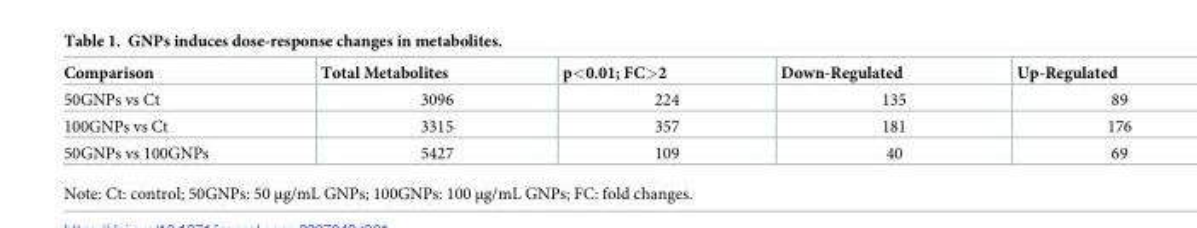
<table><thead><tr><td>Comparison</td><td>Total Metabolites</td><td>p&lt;0.01; FC&gt;2</td><td>Down-Regulated</td><td>Up-Regulated</td></tr></thead><tbody><tr><td>50GNPs vs Ct</td><td>3096</td><td>224</td><td>135</td><td>89</td></tr><tr><td>100GNPs vs Ct</td><td>3315</td><td>357</td><td>181</td><td>176</td></tr><tr><td>50GNPs vs 100GNPs</td><td>5427</td><td>109</td><td>40</td><td>69</td></tr></tbody></table>